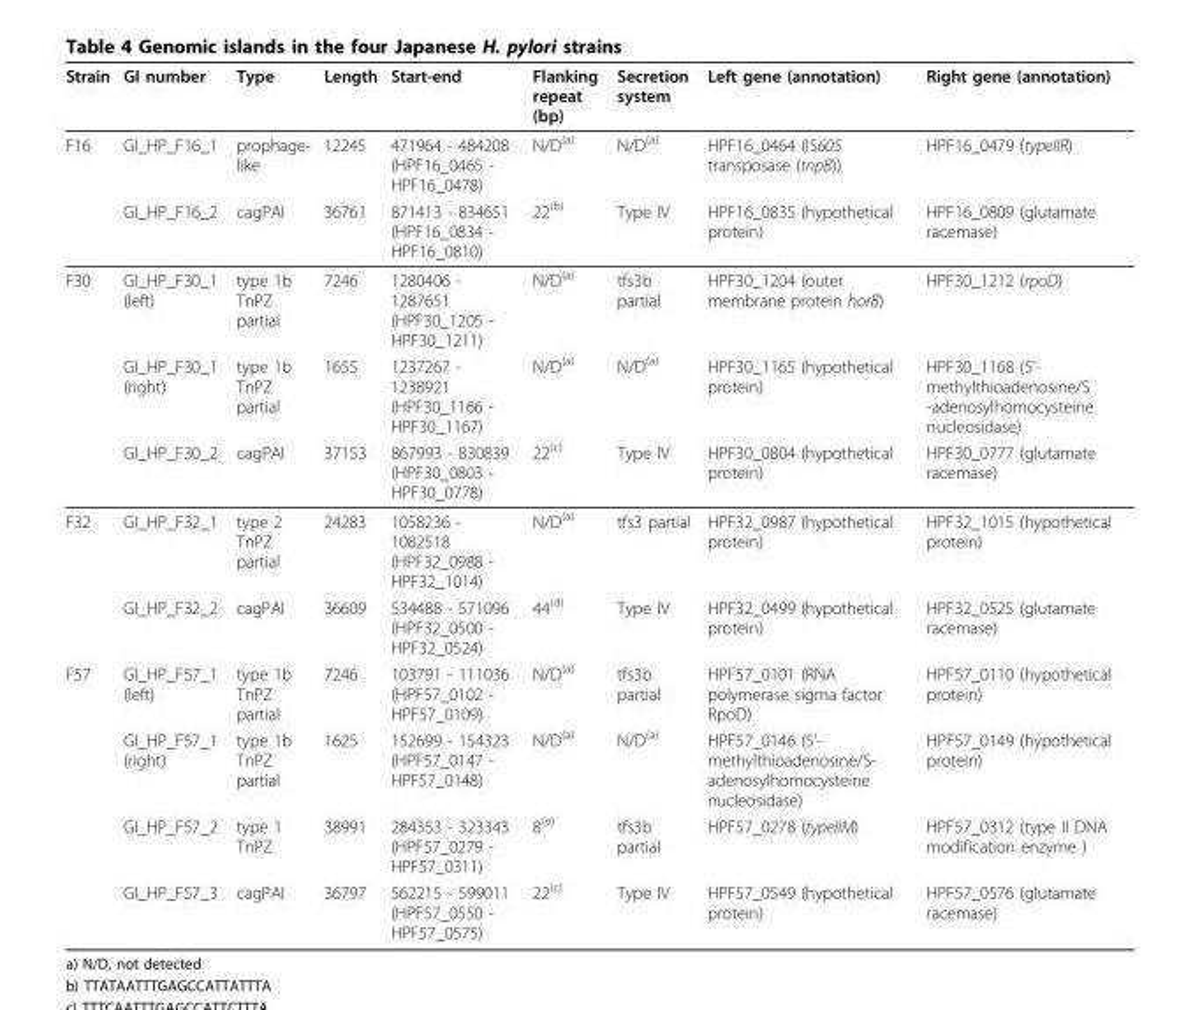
<table><thead><tr><td>Strain</td><td>GI number</td><td>Type</td><td>Length</td><td>Start-end</td><td>Flanking repeat (bp)</td><td>Secretion system</td><td>Left gene (annotation)</td><td>Right gene (annotation)</td></tr></thead><tbody><tr><td rowspan="2">F16</td><td>GI_HP_F16_1</td><td>prophage- like</td><td>12245</td><td>471964 - 484208 (HPF16_0465 - HPF16_0478)</td><td>N/D<sup>(a)</sup></td><td>N/D<sup>(a)</sup></td><td>HPF16_0464 (IS605 transposase (tnpB))</td><td>HPF16_0479 (typeIIR)</td></tr><tr><td>GI_HP_F16_2</td><td>cagPAI</td><td>36761</td><td>871413 - 834651 (HPF16_0834 - HPF16_0810)</td><td>22<sup>(b)</sup></td><td>Type IV</td><td>HPF16_0835 (hypothetical protein)</td><td>HPF16_0809 (glutamate racemase)</td></tr><tr><td rowspan="3">F30</td><td>GI_HP_F30_1 (left)</td><td>type 1b TnPZ partial</td><td>7246</td><td>1280406 - 1287651 (HPF30_1205 - HPF30_1211)</td><td>N/D<sup>(a)</sup></td><td>tfs3b partial</td><td>HPF30_1204 (outer membrane protein horB)</td><td>HPF30_1212 (rpoD)</td></tr><tr><td>GI_HP_F30_1 (right)</td><td>type 1b TnPZ partial</td><td>1655</td><td>1237267 - 1238921 (HPF30_1166 - HPF30_1167)</td><td>N/D<sup>(a)</sup></td><td>N/D<sup>(a)</sup></td><td>HPF30_1165 (hypothetical protein)</td><td>HPF30_1168 (5’- methylthioadenosine/S -adenosylhomocysteine nucleosidase)</td></tr><tr><td>GI_HP_F30_2</td><td>cagPAI</td><td>37153</td><td>867993 - 830839 (HPF30_0803 - HPF30_0778)</td><td>22<sup>(c)</sup></td><td>Type IV</td><td>HPF30_0804 (hypothetical protein)</td><td>HPF30_0777 (glutamate racemase)</td></tr><tr><td rowspan="2">F32</td><td>GI_HP_F32_1</td><td>type 2 TnPZ partial</td><td>24283</td><td>1058236 - 1082518 (HPF32_0988 - HPF32_1014)</td><td>N/D<sup>(a)</sup></td><td>tfs3 partial</td><td>HPF32_0987 (hypothetical protein)</td><td>HPF32_1015 (hypothetical protein)</td></tr><tr><td>GI_HP_F32_2</td><td>cagPAI</td><td>36609</td><td>534488 - 571096 (HPF32_0500 - HPF32_0524)</td><td>44<sup>(d)</sup></td><td>Type IV</td><td>HPF32_0499 (hypothetical protein)</td><td>HPF32_0525 (glutamate racemase)</td></tr><tr><td rowspan="4">F57</td><td>GI_HP_F57_1 (left)</td><td>type 1b TnPZ partial</td><td>7246</td><td>103791 - 111036 (HPF57_0102 - HPF57_0109)</td><td>N/D<sup>(a)</sup></td><td>tfs3b partial</td><td>HPF57_0101 (RNA polymerase sigma factor RpoD)</td><td>HPF57_0110 (hypothetical protein)</td></tr><tr><td>GI_HP_F57_1 (right)</td><td>type 1b TnPZ partial</td><td>1625</td><td>152699 - 154323 (HPF57_0147 - HPF57_0148)</td><td>N/D<sup>(a)</sup></td><td>N/D<sup>(a)</sup></td><td>HPF57_0146 (5’- methylthioadenosine/S- adenosylhomocysteine nucleosidase)</td><td>HPF57_0149 (hypothetical protein)</td></tr><tr><td>GI_HP_F57_2</td><td>type 1 TnPZ</td><td>38991</td><td>284353 - 323343 (HPF57_0279 - HPF57_0311)</td><td>8<sup>(e)</sup></td><td>tfs3b partial</td><td>HPF57_0278 (typeIIM)</td><td>HPF57_0312 (type II DNA modification enzyme )</td></tr><tr><td>GI_HP_F57_3</td><td>cagPAI</td><td>36797</td><td>562215 - 599011 (HPF57_0550 - HPF57_0575)</td><td>22<sup>(c)</sup></td><td>Type IV</td><td>HPF57_0549 (hypothetical protein)</td><td>HPF57_0576 (glutamate racemase)</td></tr></tbody></table>